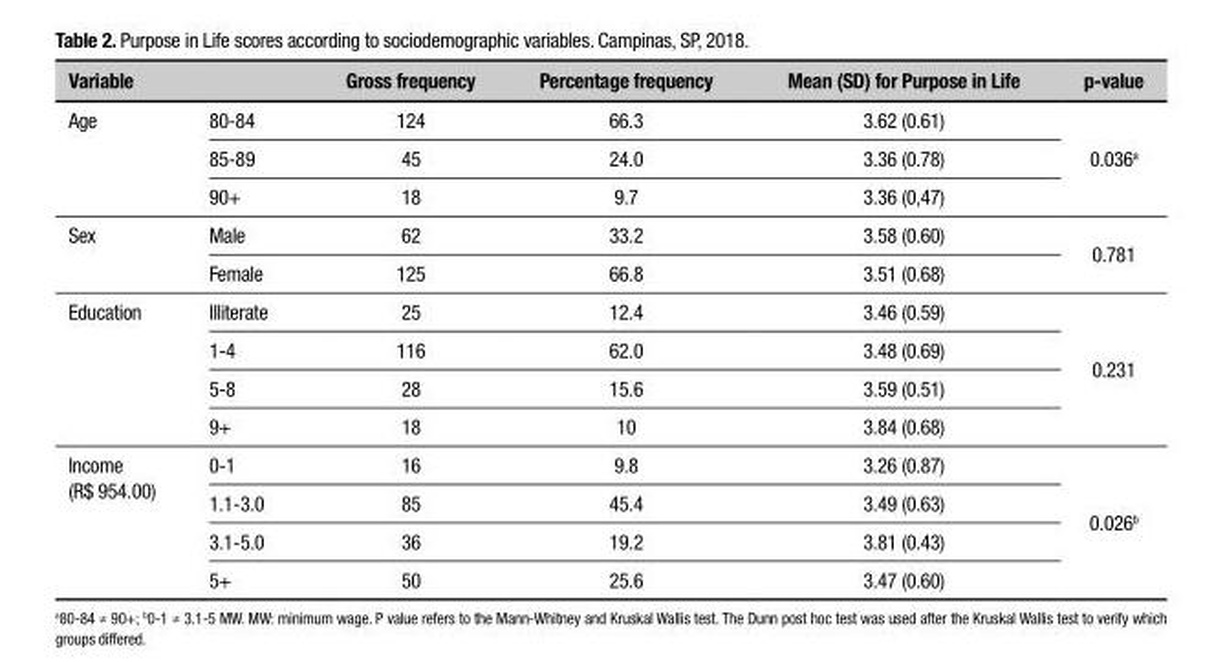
<table><thead><tr><td>Variable</td><td></td><td>Gross frequency</td><td>Percentage frequency</td><td>Mean (SD) for Purpose in Life</td><td>p-value</td></tr></thead><tbody><tr><td rowspan="3">Age</td><td>80-84</td><td>124</td><td>66.3</td><td>3.62 (0.61)</td><td rowspan="3">0.036<sup>a</sup></td></tr><tr><td>85-89</td><td>45</td><td>24.0</td><td>3.36 (0.78)</td></tr><tr><td>90+</td><td>18</td><td>9.7</td><td>3.36 (0,47)</td></tr><tr><td rowspan="2">Sex</td><td>Male</td><td>62</td><td>33.2</td><td>3.58 (0.60)</td><td rowspan="2">0.781</td></tr><tr><td>Female</td><td>125</td><td>66.8</td><td>3.51 (0.68)</td></tr><tr><td rowspan="4">Education</td><td>Illiterate</td><td>25</td><td>12.4</td><td>3.46 (0.59)</td><td rowspan="4">0.231</td></tr><tr><td>1-4</td><td>116</td><td>62.0</td><td>3.48 (0.69)</td></tr><tr><td>5-8</td><td>28</td><td>15.6</td><td>3.59 (0.51)</td></tr><tr><td>9+</td><td>18</td><td>10</td><td>3.84 (0.68)</td></tr><tr><td rowspan="4">Income (R$ 954.00)</td><td>0-1</td><td>16</td><td>9.8</td><td>3.26 (0.87)</td><td rowspan="4">0.026<sup>b</sup></td></tr><tr><td>1.1-3.0</td><td>85</td><td>45.4</td><td>3.49 (0.63)</td></tr><tr><td>3.1-5.0</td><td>36</td><td>19.2</td><td>3.81 (0.43)</td></tr><tr><td>5+</td><td>50</td><td>25.6</td><td>3.47 (0.60)</td></tr></tbody></table>